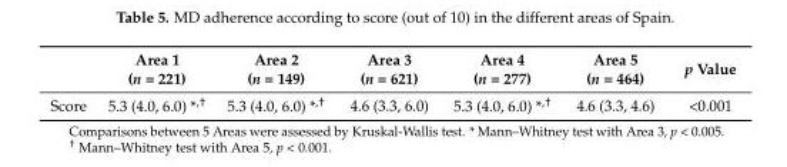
<table><thead><tr><td></td><td>Area 1 (n = 221)</td><td>Area 2 (n = 149)</td><td>Area 3 (n = 621)</td><td>Area 4 (n = 277)</td><td>Area 5 (n = 464)</td><td>p Value</td></tr></thead><tbody><tr><td>Score</td><td>5.3 (4.0, 6.0) *<sup>,†</sup></td><td>5.3 (4.0, 6.0) *<sup>,†</sup></td><td>4.6 (3.3, 6.0)</td><td>5.3 (4.0, 6.0) *<sup>,†</sup></td><td>4.6 (3.3, 4.6)</td><td>&lt;0.001</td></tr></tbody></table>